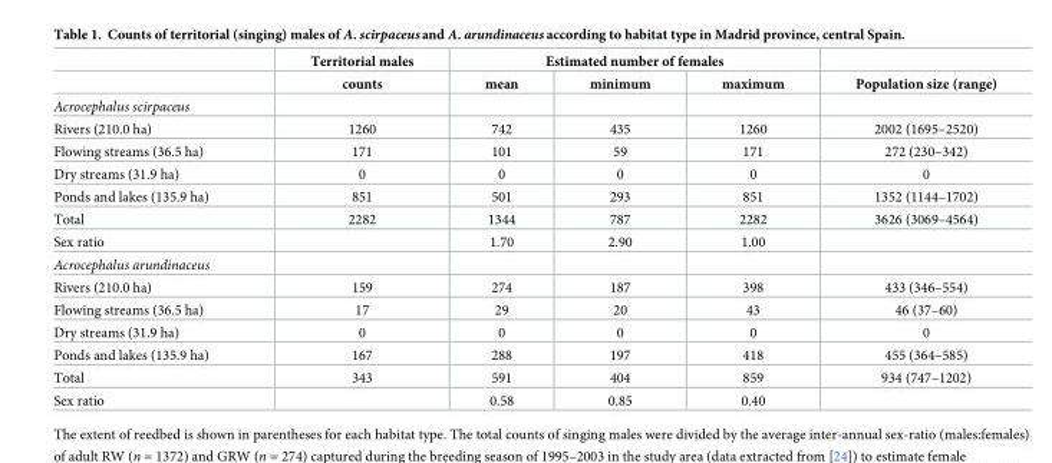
<table><thead><tr><td rowspan="2"></td><td rowspan="2">Territorial males counts</td><td colspan="3">Estimated number of females</td><td rowspan="2">Population size (range)</td></tr><tr><td>mean</td><td>minimum</td><td>maximum</td></tr></thead><tbody><tr><td colspan="6">Acrocephalus scirpaceus</td></tr><tr><td>Rivers (210.0 ha)</td><td>1260</td><td>742</td><td>435</td><td>1260</td><td>2002 (1695–2520)</td></tr><tr><td>Flowing streams (36.5 ha)</td><td>171</td><td>101</td><td>59</td><td>171</td><td>272 (230–342)</td></tr><tr><td>Dry streams (31.9 ha)</td><td>0</td><td>0</td><td>0</td><td>0</td><td>0</td></tr><tr><td>Ponds and lakes (135.9 ha)</td><td>851</td><td>501</td><td>293</td><td>851</td><td>1352 (1144–1702)</td></tr><tr><td>Total</td><td>2282</td><td>1344</td><td>787</td><td>2282</td><td>3626 (3069–4564)</td></tr><tr><td>Sex ratio</td><td></td><td>1.70</td><td>2.90</td><td>1.00</td><td></td></tr><tr><td colspan="6">Acrocephalus arundinaceus</td></tr><tr><td>Rivers (210.0 ha)</td><td>159</td><td>274</td><td>187</td><td>398</td><td>433 (346–554)</td></tr><tr><td>Flowing streams (36.5 ha)</td><td>17</td><td>29</td><td>20</td><td>43</td><td>46 (37–60)</td></tr><tr><td>Dry streams (31.9 ha)</td><td>0</td><td>0</td><td>0</td><td>0</td><td>0</td></tr><tr><td>Ponds and lakes (135.9 ha)</td><td>167</td><td>288</td><td>197</td><td>418</td><td>455 (364–585)</td></tr><tr><td>Total</td><td>343</td><td>591</td><td>404</td><td>859</td><td>934 (747–1202)</td></tr><tr><td>Sex ratio</td><td></td><td>0.58</td><td>0.85</td><td>0.40</td><td></td></tr></tbody></table>